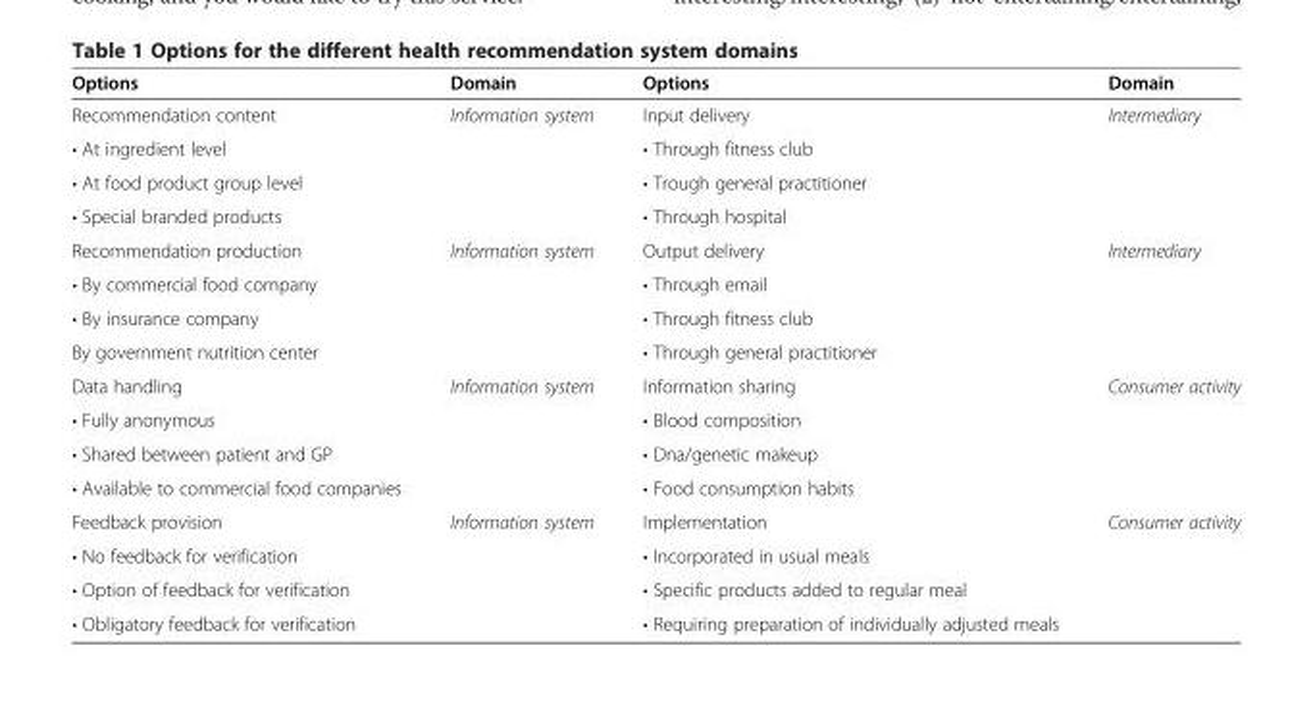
<table><thead><tr><td>Options</td><td>Domain</td><td>Options</td><td>Domain</td></tr></thead><tbody><tr><td>Recommendation content</td><td>Information system</td><td>Input delivery</td><td>Intermediary</td></tr><tr><td>• At ingredient level</td><td></td><td>• Through fitness club</td><td></td></tr><tr><td>• At food product group level</td><td></td><td>• Trough general practitioner</td><td rowspan="2"></td></tr><tr><td>• Special branded products</td><td></td><td>• Through hospital</td></tr><tr><td>Recommendation production</td><td>Information system</td><td>Output delivery</td><td>Intermediary</td></tr><tr><td>• By commercial food company</td><td></td><td>• Through email</td><td></td></tr><tr><td>• By insurance company</td><td></td><td>• Through fitness club</td><td></td></tr><tr><td>By government nutrition center</td><td></td><td>• Through general practitioner</td><td></td></tr><tr><td>Data handling</td><td>Information system</td><td>Information sharing</td><td>Consumer activity</td></tr><tr><td>• Fully anonymous</td><td></td><td>• Blood composition</td><td></td></tr><tr><td>• Shared between patient and GP</td><td></td><td>• Dna/genetic makeup</td><td></td></tr><tr><td>• Available to commercial food companies</td><td></td><td>• Food consumption habits</td><td></td></tr><tr><td>Feedback provision</td><td>Information system</td><td>Implementation</td><td>Consumer activity</td></tr><tr><td>• No feedback for verification</td><td></td><td>• Incorporated in usual meals</td><td></td></tr><tr><td>• Option of feedback for verification</td><td></td><td>• Specific products added to regular meal</td><td></td></tr><tr><td>• Obligatory feedback for verification</td><td></td><td>• Requiring preparation of individually adjusted meals</td><td></td></tr></tbody></table>